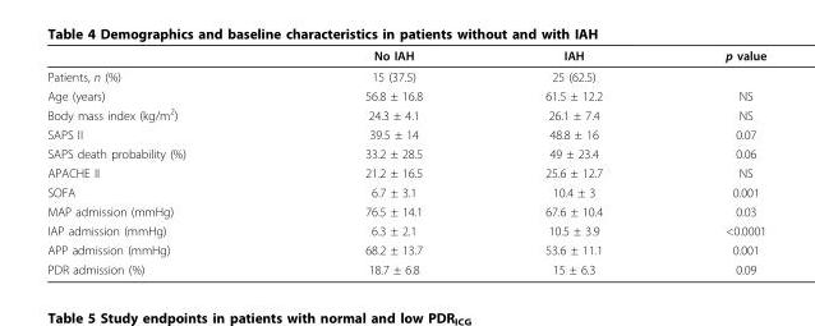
<table><thead><tr><td></td><td>No IAH</td><td>IAH</td><td>p value</td></tr></thead><tbody><tr><td>Patients, n (%)</td><td>15 (37.5)</td><td>25 (62.5)</td><td></td></tr><tr><td>Age (years)</td><td>56.8 ± 16.8</td><td>61.5 ± 12.2</td><td>NS</td></tr><tr><td>Body mass index (kg/m<sup>2</sup>)</td><td>24.3 ± 4.1</td><td>26.1 ± 7.4</td><td>NS</td></tr><tr><td>SAPS II</td><td>39.5 ± 14</td><td>48.8 ± 16</td><td>0.07</td></tr><tr><td>SAPS death probability (%)</td><td>33.2 ± 28.5</td><td>49 ± 23.4</td><td>0.06</td></tr><tr><td>APACHE II</td><td>21.2 ± 16.5</td><td>25.6 ± 12.7</td><td>NS</td></tr><tr><td>SOFA</td><td>6.7 ± 3.1</td><td>10.4 ± 3</td><td>0.001</td></tr><tr><td>MAP admission (mmHg)</td><td>76.5 ± 14.1</td><td>67.6 ± 10.4</td><td>0.03</td></tr><tr><td>IAP admission (mmHg)</td><td>6.3 ± 2.1</td><td>10.5 ± 3.9</td><td>&lt;0.0001</td></tr><tr><td>APP admission (mmHg)</td><td>68.2 ± 13.7</td><td>53.6 ± 11.1</td><td>0.001</td></tr><tr><td>PDR admission (%)</td><td>18.7 ± 6.8</td><td>15 ± 6.3</td><td>0.09</td></tr></tbody></table>